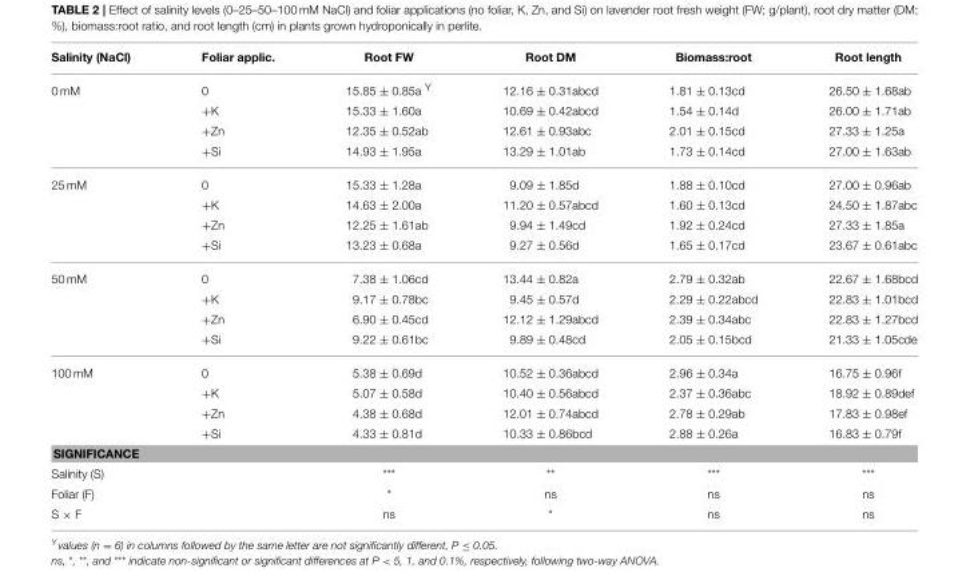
<table><thead><tr><td>Salinity (NaCl)</td><td>Foliar applic.</td><td>Root FW</td><td>Root DM</td><td>Biomass:root</td><td>Root length</td></tr></thead><tbody><tr><td rowspan="4">0 mM</td><td>0</td><td>15.85 ± 0.85a <sup>Y</sup></td><td>12.16 ± 0.31abcd</td><td>1.81 ± 0.13cd</td><td>26.50 ± 1.68ab</td></tr><tr><td>+K</td><td>15.33 ± 1.60a</td><td>10.69 ± 0.42abcd</td><td>1.54 ± 0.14d</td><td>26.00 ± 1.71ab</td></tr><tr><td>+Zn</td><td>12.35 ± 0.52ab</td><td>12.61 ± 0.93abc</td><td>2.01 ± 0.15cd</td><td>27.33 ± 1.25a</td></tr><tr><td>+Si</td><td>14.93 ± 1.95a</td><td>13.29 ± 1.01ab</td><td>1.73 ± 0.14cd</td><td>27.00 ± 1.63ab</td></tr><tr><td rowspan="4">25 mM</td><td>0</td><td>15.33 ± 1.28a</td><td>9.09 ± 1.85d</td><td>1.88 ± 0.10cd</td><td>27.00 ± 0.96ab</td></tr><tr><td>+K</td><td>14.63 ± 2.00a</td><td>11.20 ± 0.57abcd</td><td>1.60 ± 0.13cd</td><td>24.50 ± 1.87abc</td></tr><tr><td>+Zn</td><td>12.25 ± 1.61ab</td><td>9.94 ± 1.49cd</td><td>1.92 ± 0.24cd</td><td>27.33 ± 1.85a</td></tr><tr><td>+Si</td><td>13.23 ± 0.68a</td><td>9.27 ± 0.56d</td><td>1.65 ± 0.17cd</td><td>23.67 ± 0.61abc</td></tr><tr><td rowspan="4">50 mM</td><td>0</td><td>7.38 ± 1.06cd</td><td>13.44 ± 0.82a</td><td>2.79 ± 0.32ab</td><td>22.67 ± 1.68bcd</td></tr><tr><td>+K</td><td>9.17 ± 0.78bc</td><td>9.45 ± 0.57d</td><td>2.29 ± 0.22abcd</td><td>22.83 ± 1.01bcd</td></tr><tr><td>+Zn</td><td>6.90 ± 0.45cd</td><td>12.12 ± 1.29abcd</td><td>2.39 ± 0.34abc</td><td>22.83 ± 1.27bcd</td></tr><tr><td>+Si</td><td>9.22 ± 0.61bc</td><td>9.89 ± 0.48cd</td><td>2.05 ± 0.15bcd</td><td>21.33 ± 1.05cde</td></tr><tr><td rowspan="4">100 mM</td><td>0</td><td>5.38 ± 0.69d</td><td>10.52 ± 0.36abcd</td><td>2.96 ± 0.34a</td><td>16.75 ± 0.96f</td></tr><tr><td>+K</td><td>5.07 ± 0.58d</td><td>10.40 ± 0.56abcd</td><td>2.37 ± 0.36abc</td><td>18.92 ± 0.89def</td></tr><tr><td>+Zn</td><td>4.38 ± 0.68d</td><td>12.01 ± 0.74abcd</td><td>2.78 ± 0.29ab</td><td>17.83 ± 0.98ef</td></tr><tr><td>+Si</td><td>4.33 ± 0.81d</td><td>10.33 ± 0.86bcd</td><td>2.88 ± 0.26a</td><td>16.83 ± 0.79f</td></tr><tr><td colspan="6">SIGNIFICANCE</td></tr><tr><td colspan="2">Salinity (S)</td><td>***</td><td>**</td><td>***</td><td>***</td></tr><tr><td colspan="2">Foliar (F)</td><td>*</td><td>ns</td><td>ns</td><td>ns</td></tr><tr><td colspan="2">S × F</td><td>ns</td><td>*</td><td>ns</td><td>ns</td></tr></tbody></table>